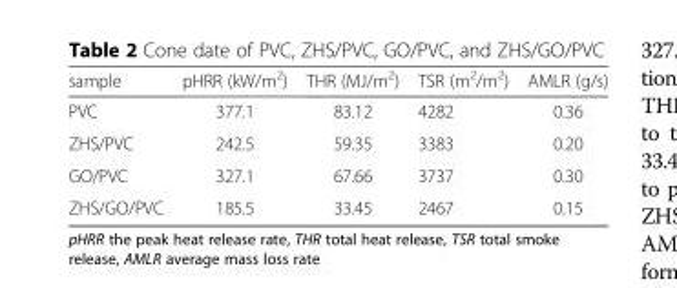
<table><thead><tr><td>sample</td><td>pHRR (kW/m<sup>2</sup>)</td><td>THR (MJ/m<sup>2</sup>)</td><td>TSR (m<sup>2</sup>/m<sup>2</sup>)</td><td>AMLR (g/s)</td></tr></thead><tbody><tr><td>PVC</td><td>377.1</td><td>83.12</td><td>4282</td><td>0.36</td></tr><tr><td>ZHS/PVC</td><td>242.5</td><td>59.35</td><td>3383</td><td>0.20</td></tr><tr><td>GO/PVC</td><td>327.1</td><td>67.66</td><td>3737</td><td>0.30</td></tr><tr><td>ZHS/GO/PVC</td><td>185.5</td><td>33.45</td><td>2467</td><td>0.15</td></tr></tbody></table>